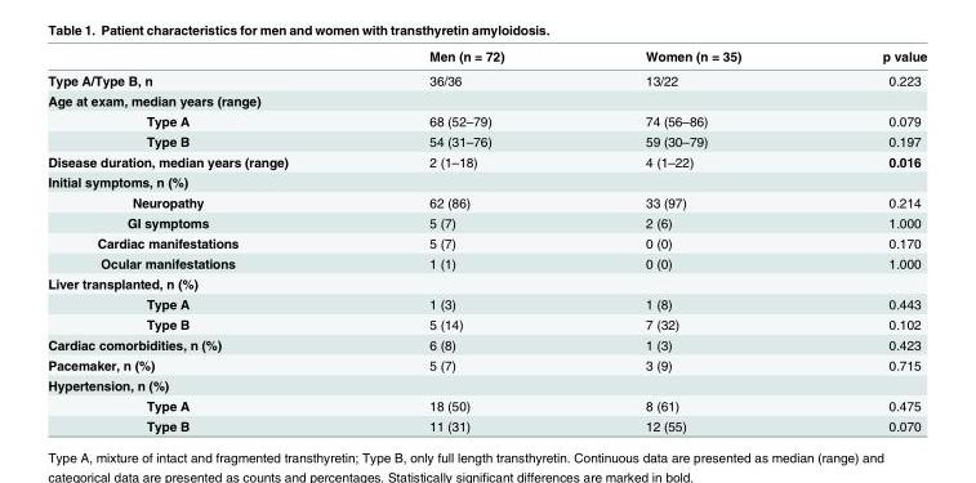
<table><thead><tr><td></td><td>Men (n = 72)</td><td>Women (n = 35)</td><td>p value</td></tr></thead><tbody><tr><td>Type A/Type B, n</td><td>36/36</td><td>13/22</td><td>0.223</td></tr><tr><td colspan="4">Age at exam, median years (range)</td></tr><tr><td>Type A</td><td>68 (52–79)</td><td>74 (56–86)</td><td>0.079</td></tr><tr><td>Type B</td><td>54 (31–76)</td><td>59 (30–79)</td><td>0.197</td></tr><tr><td>Disease duration, median years (range)</td><td>2 (1–18)</td><td>4 (1–22)</td><td>0.016</td></tr><tr><td colspan="4">Initial symptoms, n (%)</td></tr><tr><td>Neuropathy</td><td>62 (86)</td><td>33 (97)</td><td>0.214</td></tr><tr><td>GI symptoms</td><td>5 (7)</td><td>2 (6)</td><td>1.000</td></tr><tr><td>Cardiac manifestations</td><td>5 (7)</td><td>0 (0)</td><td>0.170</td></tr><tr><td>Ocular manifestations</td><td>1 (1)</td><td>0 (0)</td><td>1.000</td></tr><tr><td colspan="4">Liver transplanted, n (%)</td></tr><tr><td>Type A</td><td>1 (3)</td><td>1 (8)</td><td>0.443</td></tr><tr><td>Type B</td><td>5 (14)</td><td>7 (32)</td><td>0.102</td></tr><tr><td>Cardiac comorbidities, n (%)</td><td>6 (8)</td><td>1 (3)</td><td>0.423</td></tr><tr><td>Pacemaker, n (%)</td><td>5 (7)</td><td>3 (9)</td><td>0.715</td></tr><tr><td colspan="4">Hypertension, n (%)</td></tr><tr><td>Type A</td><td>18 (50)</td><td>8 (61)</td><td>0.475</td></tr><tr><td>Type B</td><td>11 (31)</td><td>12 (55)</td><td>0.070</td></tr></tbody></table>